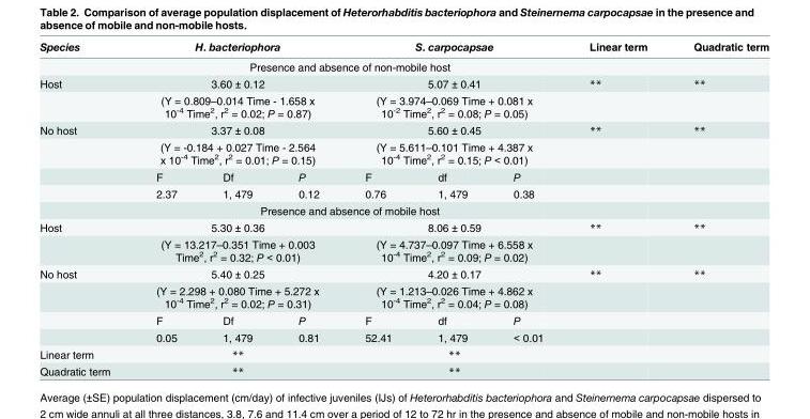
<table><thead><tr><td>Species</td><td colspan="3">H. bacteriophora</td><td colspan="3">S. carpocapsae</td><td>Linear term</td><td>Quadratic term</td></tr></thead><tbody><tr><td></td><td colspan="6">Presence and absence of non-mobile host</td><td></td><td></td></tr><tr><td rowspan="2">Host</td><td colspan="3">3.60 ± 0.12</td><td colspan="3">5.07 ± 0.41</td><td>**</td><td>**</td></tr><tr><td colspan="3">(Y = 0.809–0.014 Time - 1.658 x 10<sup>-4</sup> Time<sup>2</sup>, r<sup>2</sup> = 0.02; P = 0.87)</td><td colspan="3">(Y = 3.974–0.069 Time + 0.081 x 10<sup>-2</sup> Time<sup>2</sup>, r<sup>2</sup> = 0.08; P = 0.05)</td><td></td><td></td></tr><tr><td rowspan="5">No host</td><td colspan="3">3.37 ± 0.08</td><td colspan="3">5.60 ± 0.45</td><td>**</td><td>**</td></tr><tr><td colspan="3">(Y = -0.184 + 0.027 Time - 2.564 x 10<sup>-4</sup> Time<sup>2</sup>, r<sup>2</sup> = 0.01; P = 0.15)</td><td colspan="3">(Y = 5.611–0.101 Time + 4.387 x 10<sup>-4</sup> Time<sup>2</sup>, r<sup>2</sup> = 0.15; P &lt; 0.01)</td><td></td><td></td></tr><tr><td>F</td><td>Df</td><td>P</td><td>F</td><td>df</td><td>P</td><td></td><td></td></tr><tr><td>2.37</td><td>1, 479</td><td>0.12</td><td>0.76</td><td>1, 479</td><td>0.38</td><td></td><td></td></tr><tr><td colspan="6">Presence and absence of mobile host</td><td></td><td></td></tr><tr><td rowspan="2">Host</td><td colspan="3">5.30 ± 0.36</td><td colspan="3">8.06 ± 0.59</td><td>**</td><td>**</td></tr><tr><td colspan="3">(Y = 13.217–0.351 Time + 0.003 Time<sup>2</sup>, r<sup>2</sup> = 0.32; P &lt; 0.01)</td><td colspan="3">(Y = 4.737–0.097 Time + 6.558 x 10<sup>-4</sup> Time<sup>2</sup>, r<sup>2</sup> = 0.09; P = 0.02)</td><td></td><td></td></tr><tr><td rowspan="4">No host</td><td colspan="3">5.40 ± 0.25</td><td colspan="3">4.20 ± 0.17</td><td>**</td><td>**</td></tr><tr><td colspan="3">(Y = 2.298 + 0.080 Time + 5.272 x 10<sup>-4</sup> Time<sup>2</sup>, r<sup>2</sup> = 0.02; P = 0.31)</td><td colspan="3">(Y = 1.213–0.026 Time + 4.862 x 10<sup>-4</sup> Time<sup>2</sup>, r<sup>2</sup> = 0.04; P = 0.08)</td><td></td><td></td></tr><tr><td>F</td><td>Df</td><td>P</td><td>F</td><td>df</td><td>P</td><td></td><td></td></tr><tr><td>0.05</td><td>1, 479</td><td>0.81</td><td>52.41</td><td>1, 479</td><td>&lt; 0.01</td><td></td><td></td></tr><tr><td>Linear term</td><td colspan="3">**</td><td colspan="3">**</td><td></td><td></td></tr><tr><td>Quadratic term</td><td colspan="3">**</td><td colspan="3">**</td><td></td><td></td></tr></tbody></table>